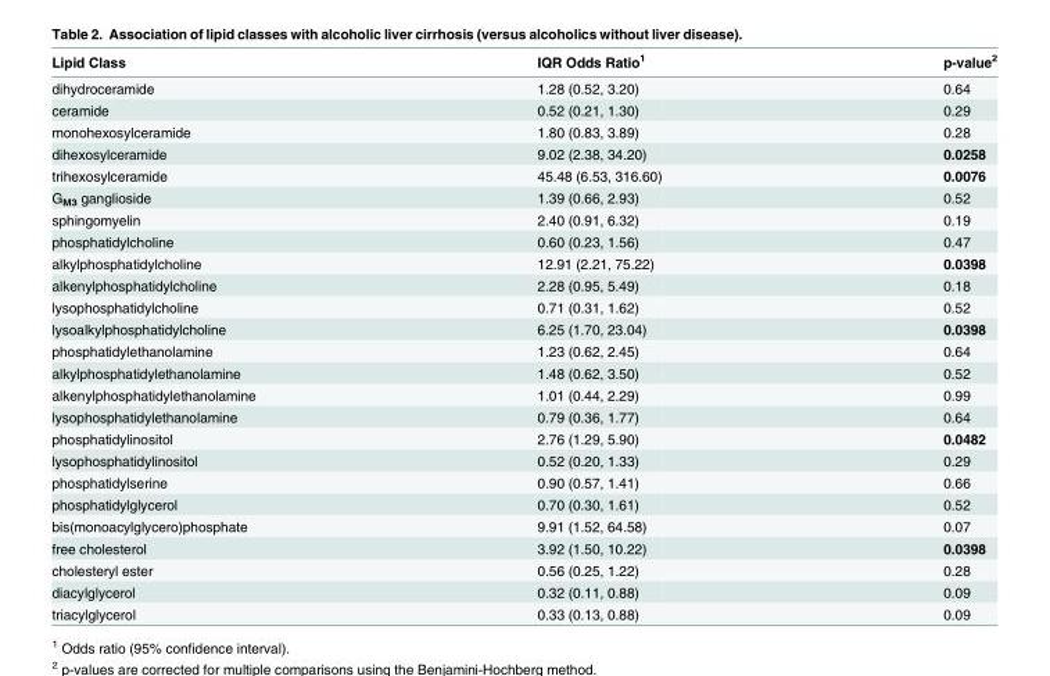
<table><thead><tr><td>Lipid Class</td><td>IQR Odds Ratio<sup>1</sup></td><td>p-value<sup>2</sup></td></tr></thead><tbody><tr><td>dihydroceramide</td><td>1.28 (0.52, 3.20)</td><td>0.64</td></tr><tr><td>ceramide</td><td>0.52 (0.21, 1.30)</td><td>0.29</td></tr><tr><td>monohexosylceramide</td><td>1.80 (0.83, 3.89)</td><td>0.28</td></tr><tr><td>dihexosylceramide</td><td>9.02 (2.38, 34.20)</td><td>0.0258</td></tr><tr><td>trihexosylceramide</td><td>45.48 (6.53, 316.60)</td><td>0.0076</td></tr><tr><td>G<sub>M3</sub> ganglioside</td><td>1.39 (0.66, 2.93)</td><td>0.52</td></tr><tr><td>sphingomyelin</td><td>2.40 (0.91, 6.32)</td><td>0.19</td></tr><tr><td>phosphatidylcholine</td><td>0.60 (0.23, 1.56)</td><td>0.47</td></tr><tr><td>alkylphosphatidylcholine</td><td>12.91 (2.21, 75.22)</td><td>0.0398</td></tr><tr><td>alkenylphosphatidylcholine</td><td>2.28 (0.95, 5.49)</td><td>0.18</td></tr><tr><td>lysophosphatidylcholine</td><td>0.71 (0.31, 1.62)</td><td>0.52</td></tr><tr><td>lysoalkylphosphatidylcholine</td><td>6.25 (1.70, 23.04)</td><td>0.0398</td></tr><tr><td>phosphatidylethanolamine</td><td>1.23 (0.62, 2.45)</td><td>0.64</td></tr><tr><td>alkylphosphatidylethanolamine</td><td>1.48 (0.62, 3.50)</td><td>0.52</td></tr><tr><td>alkenylphosphatidylethanolamine</td><td>1.01 (0.44, 2.29)</td><td>0.99</td></tr><tr><td>lysophosphatidylethanolamine</td><td>0.79 (0.36, 1.77)</td><td>0.64</td></tr><tr><td>phosphatidylinositol</td><td>2.76 (1.29, 5.90)</td><td>0.0482</td></tr><tr><td>lysophosphatidylinositol</td><td>0.52 (0.20, 1.33)</td><td>0.29</td></tr><tr><td>phosphatidylserine</td><td>0.90 (0.57, 1.41)</td><td>0.66</td></tr><tr><td>phosphatidylglycerol</td><td>0.70 (0.30, 1.61)</td><td>0.52</td></tr><tr><td>bis(monoacylglycero)phosphate</td><td>9.91 (1.52, 64.58)</td><td>0.07</td></tr><tr><td>free cholesterol</td><td>3.92 (1.50, 10.22)</td><td>0.0398</td></tr><tr><td>cholesteryl ester</td><td>0.56 (0.25, 1.22)</td><td>0.28</td></tr><tr><td>diacylglycerol</td><td>0.32 (0.11, 0.88)</td><td>0.09</td></tr><tr><td>triacylglycerol</td><td>0.33 (0.13, 0.88)</td><td>0.09</td></tr></tbody></table>